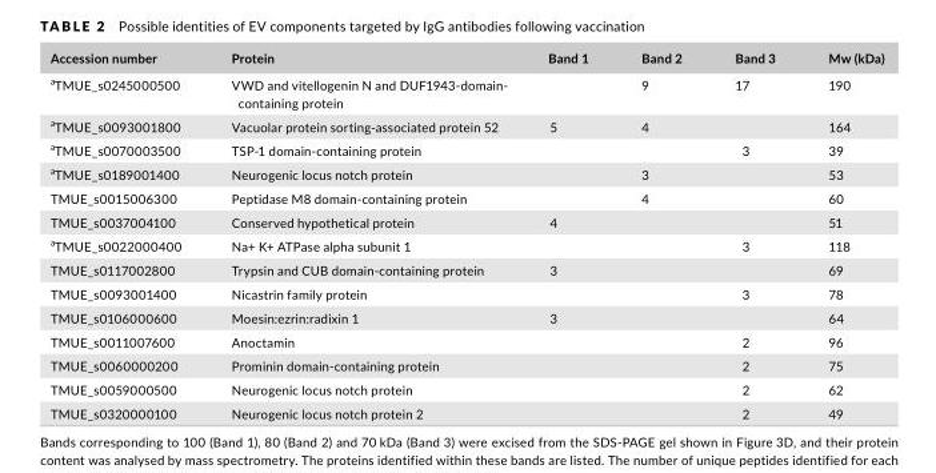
<table><thead><tr><td>Accession number</td><td>Protein</td><td>Band 1</td><td>Band 2</td><td>Band 3</td><td>Mw (kDa)</td></tr></thead><tbody><tr><td>aTMUE_s0245000500</td><td>VWD and vitellogenin N and DUF1943- domain- containing protein</td><td></td><td>9</td><td>17</td><td>190</td></tr><tr><td>aTMUE_s0093001800</td><td>Vacuolar protein sorting- associated protein 52</td><td>5</td><td>4</td><td></td><td>164</td></tr><tr><td>aTMUE_s0070003500</td><td>TSP- 1 domain- containing protein</td><td></td><td></td><td>3</td><td>39</td></tr><tr><td>aTMUE_s0189001400</td><td>Neurogenic locus notch protein</td><td></td><td>3</td><td></td><td>53</td></tr><tr><td>TMUE_s0015006300</td><td>Peptidase M8 domain- containing protein</td><td></td><td>4</td><td></td><td>60</td></tr><tr><td>TMUE_s0037004100</td><td>Conserved hypothetical protein</td><td>4</td><td></td><td></td><td>51</td></tr><tr><td>aTMUE_s0022000400</td><td>Na+ K+ ATPase alpha subunit 1</td><td></td><td></td><td>3</td><td>118</td></tr><tr><td>TMUE_s0117002800</td><td>Trypsin and CUB domain- containing protein</td><td>3</td><td></td><td></td><td>69</td></tr><tr><td>TMUE_s0093001400</td><td>Nicastrin family protein</td><td></td><td></td><td>3</td><td>78</td></tr><tr><td>TMUE_s0106000600</td><td>Moesin:ezrin:radixin 1</td><td>3</td><td></td><td></td><td>64</td></tr><tr><td>TMUE_s0011007600</td><td>Anoctamin</td><td></td><td></td><td>2</td><td>96</td></tr><tr><td>TMUE_s0060000200</td><td>Prominin domain- containing protein</td><td></td><td></td><td>2</td><td>75</td></tr><tr><td>TMUE_s0059000500</td><td>Neurogenic locus notch protein</td><td></td><td></td><td>2</td><td>62</td></tr><tr><td>TMUE_s0320000100</td><td>Neurogenic locus notch protein 2</td><td></td><td></td><td>2</td><td>49</td></tr></tbody></table>